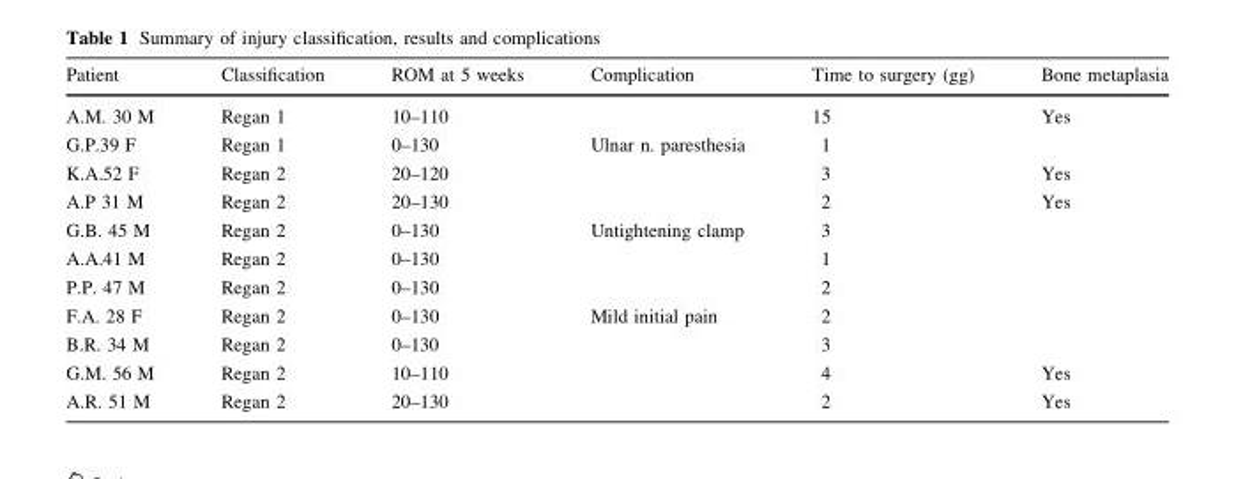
<table><thead><tr><td>Patient</td><td>Classification</td><td>ROM at 5 weeks</td><td>Complication</td><td>Time to surgery (gg)</td><td>Bone metaplasia</td></tr></thead><tbody><tr><td>A.M. 30 M</td><td>Regan 1</td><td>10–110</td><td></td><td>15</td><td>Yes</td></tr><tr><td>G.P.39 F</td><td>Regan 1</td><td>0–130</td><td>Ulnar n. paresthesia</td><td>1</td><td></td></tr><tr><td>K.A.52 F</td><td>Regan 2</td><td>20–120</td><td></td><td>3</td><td>Yes</td></tr><tr><td>A.P 31 M</td><td>Regan 2</td><td>20–130</td><td></td><td>2</td><td>Yes</td></tr><tr><td>G.B. 45 M</td><td>Regan 2</td><td>0–130</td><td>Untightening clamp</td><td>3</td><td></td></tr><tr><td>A.A.41 M</td><td>Regan 2</td><td>0–130</td><td></td><td>1</td><td></td></tr><tr><td>P.P. 47 M</td><td>Regan 2</td><td>0–130</td><td></td><td>2</td><td></td></tr><tr><td>F.A. 28 F</td><td>Regan 2</td><td>0–130</td><td>Mild initial pain</td><td>2</td><td></td></tr><tr><td>B.R. 34 M</td><td>Regan 2</td><td>0–130</td><td></td><td>3</td><td></td></tr><tr><td>G.M. 56 M</td><td>Regan 2</td><td>10–110</td><td></td><td>4</td><td>Yes</td></tr><tr><td>A.R. 51 M</td><td>Regan 2</td><td>20–130</td><td></td><td>2</td><td>Yes</td></tr></tbody></table>